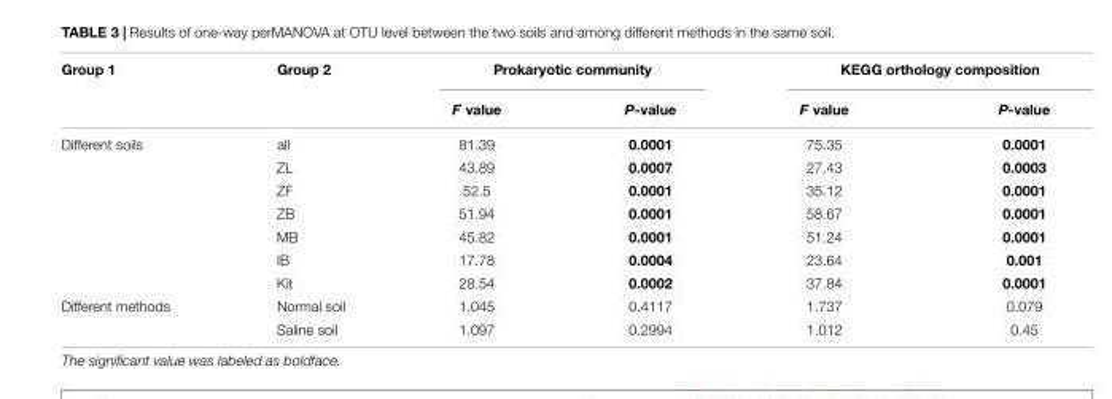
<table><thead><tr><td rowspan="2">Group 1</td><td rowspan="2">Group 2</td><td colspan="2">Prokaryotic community</td><td colspan="2">KEGG orthology composition</td></tr><tr><td>F value</td><td>P-value</td><td>F value</td><td>P-value</td></tr></thead><tbody><tr><td rowspan="7">Different soils</td><td>all</td><td>81.39</td><td>0.0001</td><td>75.35</td><td>0.0001</td></tr><tr><td>ZL</td><td>43.89</td><td>0.0007</td><td>27.43</td><td>0.0003</td></tr><tr><td>ZF</td><td>52.5</td><td>0.0001</td><td>35.12</td><td>0.0001</td></tr><tr><td>ZB</td><td>51.94</td><td>0.0001</td><td>58.67</td><td>0.0001</td></tr><tr><td>MB</td><td>45.82</td><td>0.0001</td><td>51.24</td><td>0.0001</td></tr><tr><td>IB</td><td>17.78</td><td>0.0004</td><td>23.64</td><td>0.001</td></tr><tr><td>Kit</td><td>28.54</td><td>0.0002</td><td>37.84</td><td>0.0001</td></tr><tr><td rowspan="2">Different methods</td><td>Normal soil</td><td>1.045</td><td>0.4117</td><td>1.737</td><td>0.079</td></tr><tr><td>Saline soil</td><td>1.097</td><td>0.2994</td><td>1.012</td><td>0.45</td></tr></tbody></table>